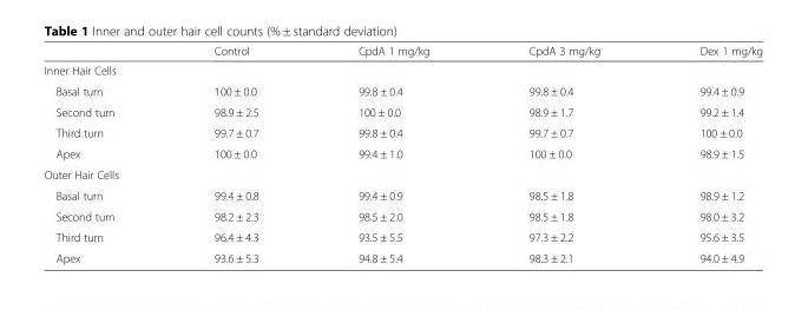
<table><thead><tr><td></td><td>Control</td><td>CpdA 1 mg/kg</td><td>CpdA 3 mg/kg</td><td>Dex 1 mg/kg</td></tr></thead><tbody><tr><td colspan="5">Inner Hair Cells</td></tr><tr><td>Basal turn</td><td>100 ± 0.0</td><td>99.8 ± 0.4</td><td>99.8 ± 0.4</td><td>99.4 ± 0.9</td></tr><tr><td>Second turn</td><td>98.9 ± 2.5</td><td>100 ± 0.0</td><td>98.9 ± 1.7</td><td>99.2 ± 1.4</td></tr><tr><td>Third turn</td><td>99.7 ± 0.7</td><td>99.8 ± 0.4</td><td>99.7 ± 0.7</td><td>100 ± 0.0</td></tr><tr><td>Apex</td><td>100 ± 0.0</td><td>99.4 ± 1.0</td><td>100 ± 0.0</td><td>98.9 ± 1.5</td></tr><tr><td colspan="5">Outer Hair Cells</td></tr><tr><td>Basal turn</td><td>99.4 ± 0.8</td><td>99.4 ± 0.9</td><td>98.5 ± 1.8</td><td>98.9 ± 1.2</td></tr><tr><td>Second turn</td><td>98.2 ± 2.3</td><td>98.5 ± 2.0</td><td>98.5 ± 1.8</td><td>98.0 ± 3.2</td></tr><tr><td>Third turn</td><td>96.4 ± 4.3</td><td>93.5 ± 5.5</td><td>97.3 ± 2.2</td><td>95.6 ± 3.5</td></tr><tr><td>Apex</td><td>93.6 ± 5.3</td><td>94.8 ± 5.4</td><td>98.3 ± 2.1</td><td>94.0 ± 4.9</td></tr></tbody></table>